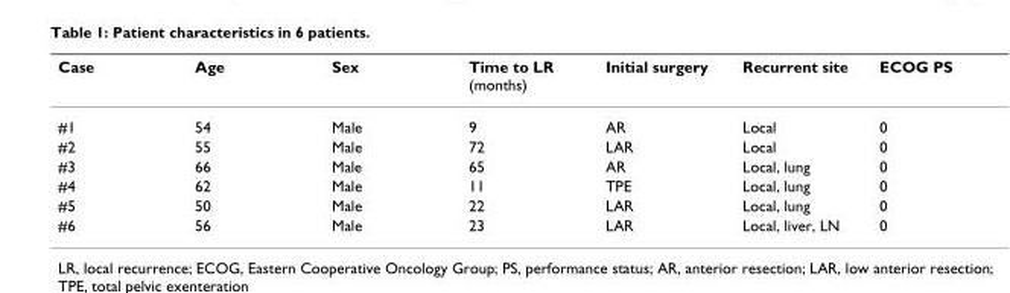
<table><thead><tr><td>Case</td><td>Age</td><td>Sex</td><td>Time to LR (months)</td><td>Initial surgery</td><td>Recurrent site</td><td>ECOG PS</td></tr></thead><tbody><tr><td>#1</td><td>54</td><td>Male</td><td>9</td><td>AR</td><td>Local</td><td>0</td></tr><tr><td>#2</td><td>55</td><td>Male</td><td>72</td><td>LAR</td><td>Local</td><td>0</td></tr><tr><td>#3</td><td>66</td><td>Male</td><td>65</td><td>AR</td><td>Local, lung</td><td>0</td></tr><tr><td>#4</td><td>62</td><td>Male</td><td>11</td><td>TPE</td><td>Local, lung</td><td>0</td></tr><tr><td>#5</td><td>50</td><td>Male</td><td>22</td><td>LAR</td><td>Local, lung</td><td>0</td></tr><tr><td>#6</td><td>56</td><td>Male</td><td>23</td><td>LAR</td><td>Local, liver, LN</td><td>0</td></tr></tbody></table>